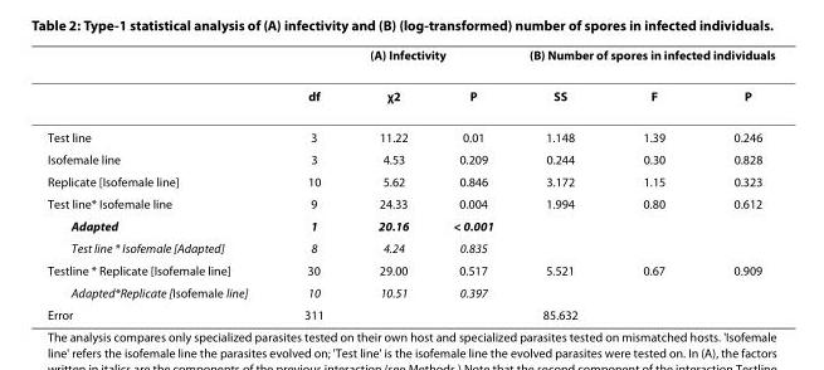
<table><thead><tr><td rowspan="2"></td><td rowspan="2">df</td><td colspan="2">(A) Infectivity</td><td colspan="3">(B) Number of spores in infected individuals</td></tr><tr><td>χ<sup>2</sup></td><td>P</td><td>SS</td><td>F</td><td>P</td></tr></thead><tbody><tr><td>Test line</td><td>3</td><td>11.22</td><td>0.01</td><td>1.148</td><td>1.39</td><td>0.246</td></tr><tr><td>Isofemale line</td><td>3</td><td>4.53</td><td>0.209</td><td>0.244</td><td>0.30</td><td>0.828</td></tr><tr><td>Replicate [Isofemale line]</td><td>10</td><td>5.62</td><td>0.846</td><td>3.172</td><td>1.15</td><td>0.323</td></tr><tr><td>Test line* Isofemale line</td><td>9</td><td>24.33</td><td>0.004</td><td>1.994</td><td>0.80</td><td>0.612</td></tr><tr><td>Adapted</td><td>1</td><td>20.16</td><td>&lt; 0.001</td><td></td><td></td><td></td></tr><tr><td>Test line * Isofemale [Adapted]</td><td>8</td><td>4.24</td><td>0.835</td><td></td><td></td><td></td></tr><tr><td>Testline * Replicate [Isofemale line]</td><td>30</td><td>29.00</td><td>0.517</td><td>5.521</td><td>0.67</td><td>0.909</td></tr><tr><td>Adapted*Replicate [Isofemale line]</td><td>10</td><td>10.51</td><td>0.397</td><td></td><td></td><td></td></tr><tr><td>Error</td><td>311</td><td></td><td></td><td>85.632</td><td></td><td></td></tr></tbody></table>